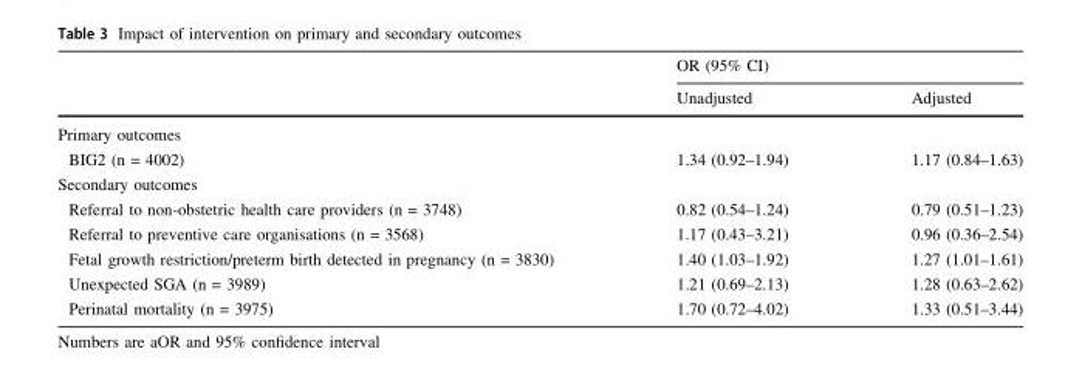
<table><thead><tr><td rowspan="2"></td><td colspan="2">OR (95% CI)</td></tr><tr><td>Unadjusted</td><td>Adjusted</td></tr></thead><tbody><tr><td colspan="3">Primary outcomes</td></tr><tr><td>BIG2 (n = 4002)</td><td>1.34 (0.92–1.94)</td><td>1.17 (0.84–1.63)</td></tr><tr><td colspan="3">Secondary outcomes</td></tr><tr><td>Referral to non-obstetric health care providers (n = 3748)</td><td>0.82 (0.54–1.24)</td><td>0.79 (0.51–1.23)</td></tr><tr><td>Referral to preventive care organisations (n = 3568)</td><td>1.17 (0.43–3.21)</td><td>0.96 (0.36–2.54)</td></tr><tr><td>Fetal growth restriction/preterm birth detected in pregnancy (n = 3830)</td><td>1.40 (1.03–1.92)</td><td>1.27 (1.01–1.61)</td></tr><tr><td>Unexpected SGA (n = 3989)</td><td>1.21 (0.69–2.13)</td><td>1.28 (0.63–2.62)</td></tr><tr><td>Perinatal mortality (n = 3975)</td><td>1.70 (0.72–4.02)</td><td>1.33 (0.51–3.44)</td></tr></tbody></table>